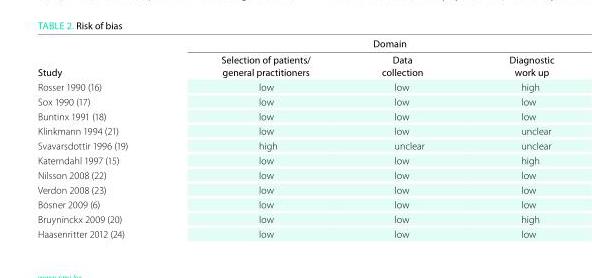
<table><thead><tr><td rowspan="2">Study</td><td colspan="3">Domain</td></tr><tr><td>Selection of patients/ general practitioners</td><td>Data collection</td><td>Diagnostic work up</td></tr></thead><tbody><tr><td>Rosser 1990 (16)</td><td>low</td><td>low</td><td>high</td></tr><tr><td>Sox 1990 (17)</td><td>low</td><td>low</td><td>low</td></tr><tr><td>Buntinx 1991 (18)</td><td>low</td><td>low</td><td>low</td></tr><tr><td>Klinkmann 1994 (21)</td><td>low</td><td>low</td><td>unclear</td></tr><tr><td>Svavarsdottir 1996 (19)</td><td>high</td><td>unclear</td><td>unclear</td></tr><tr><td>Katerndahl 1997 (15)</td><td>low</td><td>low</td><td>high</td></tr><tr><td>Nilsson 2008 (22)</td><td>low</td><td>low</td><td>low</td></tr><tr><td>Verdon 2008 (23)</td><td>low</td><td>low</td><td>low</td></tr><tr><td>Bösner 2009 (6)</td><td>low</td><td>low</td><td>low</td></tr><tr><td>Bruyninckx 2009 (20)</td><td>low</td><td>low</td><td>high</td></tr><tr><td>Haasenritter 2012 (24)</td><td>low</td><td>low</td><td>low</td></tr></tbody></table>